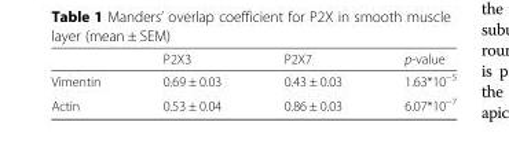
<table><thead><tr><td></td><td>P2X3</td><td>P2X7</td><td>p-value</td></tr></thead><tbody><tr><td>Vimentin</td><td>0.69 ± 0.03</td><td>0.43 ± 0.03</td><td>1.63*10<sup>−5</sup></td></tr><tr><td>Actin</td><td>0.53 ± 0.04</td><td>0.86 ± 0.03</td><td>6.07*10<sup>−7</sup></td></tr></tbody></table>